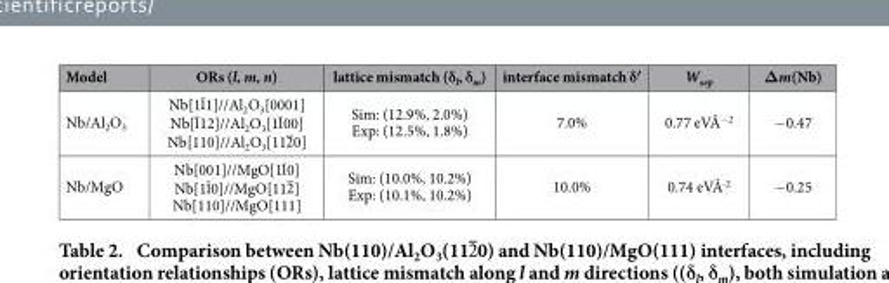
<table><thead><tr><td>Model</td><td>ORs (l, m, n)</td><td>lattice mismatch (δ<sub>l</sub>, δ<sub>m</sub>)</td><td>interface mismatch δ′</td><td>W<sub>sep</sub></td><td>Δm(Nb)</td></tr></thead><tbody><tr><td>Nb/Al<sub>2</sub>O<sub>3</sub></td><td>Nb[111]//Al2O3[0001] Nb[112]//Al2O3[1100] Nb[110]//Al2O3[1120]</td><td>Sim: (12.9%, 2.0%) Exp: (12.5%, 1.8%)</td><td>7.0%</td><td>0.77 eVÅ<sup>−2</sup></td><td>− 0.47</td></tr><tr><td>Nb/MgO</td><td>Nb[001]//MgO[110] Nb[110]//MgO[112] Nb[110]//MgO[111]</td><td>Sim: (10.0%, 10.2%) Exp: (10.1%, 10.2%)</td><td>10.0%</td><td>0.74 eVÅ<sup>-2</sup></td><td>− 0.25</td></tr></tbody></table>